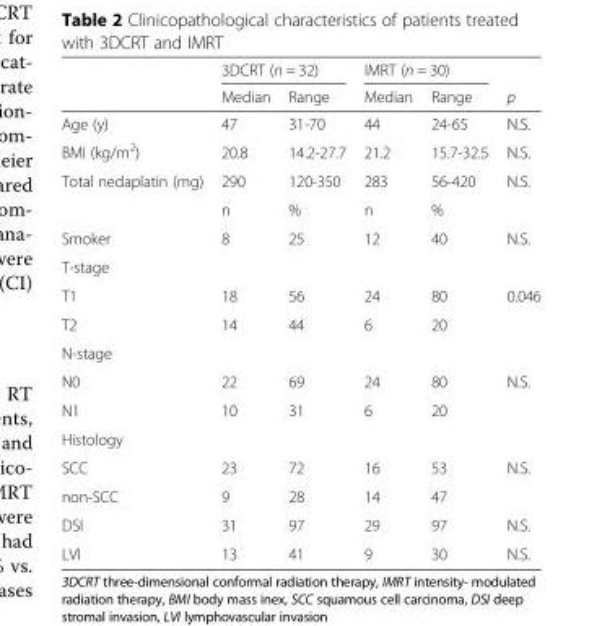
<table><thead><tr><td rowspan="2"></td><td colspan="2">3DCRT (n = 32)</td><td colspan="2">IMRT (n = 30)</td><td rowspan="2">p</td></tr><tr><td>Median</td><td>Range</td><td>Median</td><td>Range</td></tr></thead><tbody><tr><td>Age (y)</td><td>47</td><td>31-70</td><td>44</td><td>24-65</td><td>N.S.</td></tr><tr><td>BMI (kg/m<sup>2</sup>)</td><td>20.8</td><td>14.2-27.7</td><td>21.2</td><td>15.7-32.5</td><td>N.S.</td></tr><tr><td rowspan="2">Total nedaplatin (mg)</td><td>290</td><td>120-350</td><td>283</td><td>56-420</td><td>N.S.</td></tr><tr><td>n</td><td>%</td><td>n</td><td>%</td><td></td></tr><tr><td>Smoker</td><td>8</td><td>25</td><td>12</td><td>40</td><td>N.S.</td></tr><tr><td colspan="6">T-stage</td></tr><tr><td>T1</td><td>18</td><td>56</td><td>24</td><td>80</td><td rowspan="2">0.046</td></tr><tr><td>T2</td><td>14</td><td>44</td><td>6</td><td>20</td></tr><tr><td colspan="6">N-stage</td></tr><tr><td>N0</td><td>22</td><td>69</td><td>24</td><td>80</td><td rowspan="2">N.S.</td></tr><tr><td>N1</td><td>10</td><td>31</td><td>6</td><td>20</td></tr><tr><td colspan="6">Histology</td></tr><tr><td>SCC</td><td>23</td><td>72</td><td>16</td><td>53</td><td rowspan="2">N.S.</td></tr><tr><td>non-SCC</td><td>9</td><td>28</td><td>14</td><td>47</td></tr><tr><td>DSI</td><td>31</td><td>97</td><td>29</td><td>97</td><td>N.S.</td></tr><tr><td>LVI</td><td>13</td><td>41</td><td>9</td><td>30</td><td>N.S.</td></tr></tbody></table>